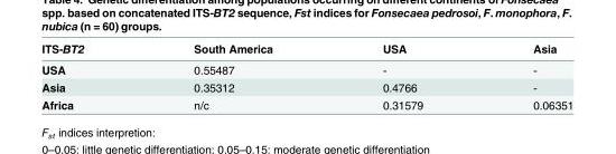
<table><thead><tr><td>ITS-BT2</td><td>South America</td><td>USA</td><td>Asia</td></tr></thead><tbody><tr><td>USA</td><td>0.55487</td><td>-</td><td>-</td></tr><tr><td>Asia</td><td>0.35312</td><td>0.4766</td><td>-</td></tr><tr><td>Africa</td><td>n/c</td><td>0.31579</td><td>0.06351</td></tr></tbody></table>